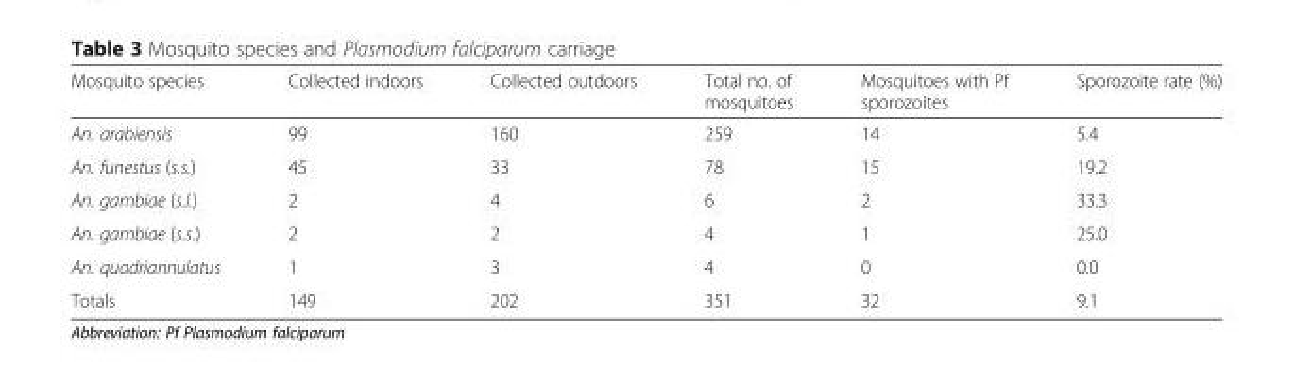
<table><thead><tr><td>Mosquito species</td><td>Collected indoors</td><td>Collected outdoors</td><td>Total no. of mosquitoes</td><td>Mosquitoes with Pf sporozoites</td><td>Sporozoite rate (%)</td></tr></thead><tbody><tr><td>An. arabiensis</td><td>99</td><td>160</td><td>259</td><td>14</td><td>5.4</td></tr><tr><td>An. funestus (s.s.)</td><td>45</td><td>33</td><td>78</td><td>15</td><td>19.2</td></tr><tr><td>An. gambiae (s.l.)</td><td>2</td><td>4</td><td>6</td><td>2</td><td>33.3</td></tr><tr><td>An. gambiae (s.s.)</td><td>2</td><td>2</td><td>4</td><td>1</td><td>25.0</td></tr><tr><td>An. quadriannulatus</td><td>1</td><td>3</td><td>4</td><td>0</td><td>0.0</td></tr><tr><td>Totals</td><td>149</td><td>202</td><td>351</td><td>32</td><td>9.1</td></tr></tbody></table>